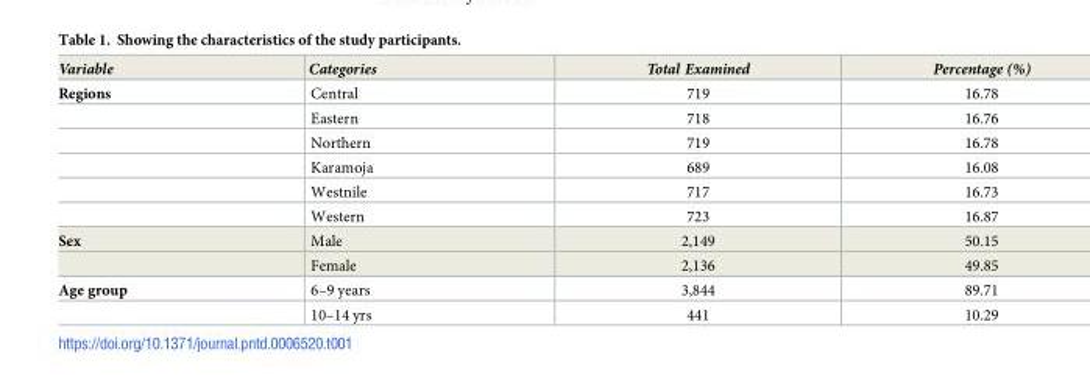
<table><thead><tr><td>Variable</td><td>Categories</td><td>Total Examined</td><td>Percentage (%)</td></tr></thead><tbody><tr><td rowspan="6">Regions</td><td>Central</td><td>719</td><td>16.78</td></tr><tr><td>Eastern</td><td>718</td><td>16.76</td></tr><tr><td>Northern</td><td>719</td><td>16.78</td></tr><tr><td>Karamoja</td><td>689</td><td>16.08</td></tr><tr><td>Westnile</td><td>717</td><td>16.73</td></tr><tr><td>Western</td><td>723</td><td>16.87</td></tr><tr><td rowspan="2">Sex</td><td>Male</td><td>2,149</td><td>50.15</td></tr><tr><td>Female</td><td>2,136</td><td>49.85</td></tr><tr><td rowspan="2">Age group</td><td>6–9 years</td><td>3,844</td><td>89.71</td></tr><tr><td>10–14 yrs</td><td>441</td><td>10.29</td></tr></tbody></table>